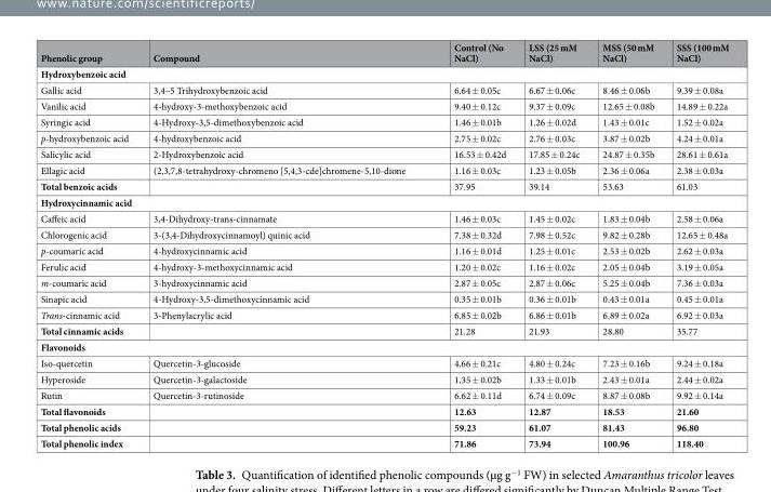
<table><thead><tr><td>Phenolic group</td><td>Compound</td><td>Control (No NaCl)</td><td>LSS (25 mM NaCl)</td><td>MSS (50 mM NaCl)</td><td>SSS (100 mM NaCl)</td></tr></thead><tbody><tr><td colspan="6">Hydroxybenzoic acid</td></tr><tr><td>Gallic acid</td><td>3,4–5 Trihydroxybenzoic acid</td><td>6.64 ± 0.05c</td><td>6.67 ± 0.06c</td><td>8.46 ± 0.06b</td><td>9.39 ± 0.08a</td></tr><tr><td>Vanilic acid</td><td>4-hydroxy-3-methoxybenzoic acid</td><td>9.40 ± 0.12c</td><td>9.37 ± 0.09c</td><td>12.65 ± 0.08b</td><td>14.89 ± 0.22a</td></tr><tr><td>Syringic acid</td><td>4-Hydroxy-3,5-dimethoxybenzoic acid</td><td>1.46 ± 0.01b</td><td>1.26 ± 0.02d</td><td>1.43 ± 0.01c</td><td>1.52 ± 0.02a</td></tr><tr><td>p-hydroxybenzoic acid</td><td>4-hydroxybenzoic acid</td><td>2.75 ± 0.02c</td><td>2.76 ± 0.03c</td><td>3.87 ± 0.02b</td><td>4.24 ± 0.01a</td></tr><tr><td>Salicylic acid</td><td>2-Hydroxybenzoic acid</td><td>16.53 ± 0.42d</td><td>17.85 ± 0.24c</td><td>24.87 ± 0.35b</td><td>28.61 ± 0.61a</td></tr><tr><td>Ellagic acid</td><td>(2,3,7,8-tetrahydroxy-chromeno [5,4,3-cde]chromene-5,10-dione</td><td>1.16 ± 0.03c</td><td>1.23 ± 0.05b</td><td>2.36 ± 0.06a</td><td>2.38 ± 0.03a</td></tr><tr><td>Total benzoic acids</td><td></td><td>37.95</td><td>39.14</td><td>53.63</td><td>61.03</td></tr><tr><td colspan="6">Hydroxycinnamic acid</td></tr><tr><td>Caffeic acid</td><td>3,4-Dihydroxy-trans-cinnamate</td><td>1.46 ± 0.03c</td><td>1.45 ± 0.02c</td><td>1.83 ± 0.04b</td><td>2.58 ± 0.06a</td></tr><tr><td>Chlorogenic acid</td><td>3-(3,4-Dihydroxycinnamoyl) quinic acid</td><td>7.38 ± 0.32d</td><td>7.98 ± 0.52c</td><td>9.82 ± 0.28b</td><td>12.65 ± 0.48a</td></tr><tr><td>p-coumaric acid</td><td>4-hydroxycinnamic acid</td><td>1.16 ± 0.01d</td><td>1.25 ± 0.01c</td><td>2.53 ± 0.02b</td><td>2.62 ± 0.03a</td></tr><tr><td>Ferulic acid</td><td>4-hydroxy-3-methoxycinnamic acid</td><td>1.20 ± 0.02c</td><td>1.16 ± 0.02c</td><td>2.05 ± 0.04b</td><td>3.19 ± 0.05a</td></tr><tr><td>m-coumaric acid</td><td>3-hydroxycinnamic acid</td><td>2.87 ± 0.05c</td><td>2.87 ± 0.06c</td><td>5.25 ± 0.04b</td><td>7.36 ± 0.03a</td></tr><tr><td>Sinapic acid</td><td>4-Hydroxy-3,5-dimethoxycinnamic acid</td><td>0.35 ± 0.01b</td><td>0.36 ± 0.01b</td><td>0.43 ± 0.01a</td><td>0.45 ± 0.01a</td></tr><tr><td>Trans-cinnamic acid</td><td>3-Phenylacrylic acid</td><td>6.85 ± 0.02b</td><td>6.86 ± 0.01b</td><td>6.89 ± 0.02a</td><td>6.92 ± 0.03a</td></tr><tr><td>Total cinnamic acids</td><td></td><td>21.28</td><td>21.93</td><td>28.80</td><td>35.77</td></tr><tr><td colspan="6">Flavonoids</td></tr><tr><td>Iso-quercetin</td><td>Quercetin-3-glucoside</td><td>4.66 ± 0.21c</td><td>4.80 ± 0.24c</td><td>7.23 ± 0.16b</td><td>9.24 ± 0.18a</td></tr><tr><td>Hyperoside</td><td>Quercetin-3-galactoside</td><td>1.35 ± 0.02b</td><td>1.33 ± 0.01b</td><td>2.43 ± 0.01a</td><td>2.44 ± 0.02a</td></tr><tr><td>Rutin</td><td>Quercetin-3-rutinoside</td><td>6.62 ± 0.11d</td><td>6.74 ± 0.09c</td><td>8.87 ± 0.08b</td><td>9.92 ± 0.14a</td></tr><tr><td>Total flavonoids</td><td></td><td>12.63</td><td>12.87</td><td>18.53</td><td>21.60</td></tr><tr><td>Total phenolic acids</td><td></td><td>59.23</td><td>61.07</td><td>81.43</td><td>96.80</td></tr><tr><td>Total phenolic index</td><td></td><td>71.86</td><td>73.94</td><td>100.96</td><td>118.40</td></tr></tbody></table>